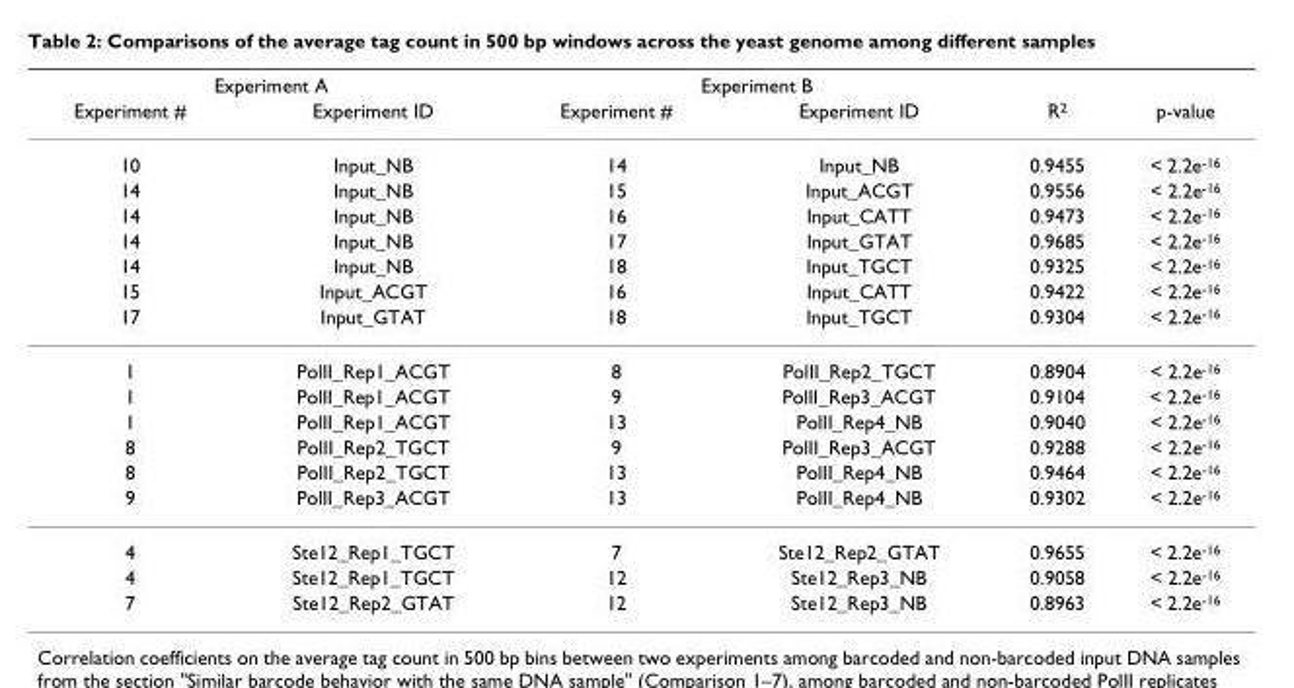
<table><thead><tr><td colspan="2">Experiment A</td><td colspan="2">Experiment B</td><td rowspan="2">R<sup>2</sup></td><td rowspan="2">p-value</td></tr><tr><td>Experiment #</td><td>Experiment ID</td><td>Experiment #</td><td>Experiment ID</td></tr></thead><tbody><tr><td>10</td><td>Input_NB</td><td>14</td><td>Input_NB</td><td>0.9455</td><td>&lt; 2.2e<sup>-16</sup></td></tr><tr><td>14</td><td>Input_NB</td><td>15</td><td>Input_ACGT</td><td>0.9556</td><td>&lt; 2.2e<sup>-16</sup></td></tr><tr><td>14</td><td>Input_NB</td><td>16</td><td>Input_CATT</td><td>0.9473</td><td>&lt; 2.2e<sup>-16</sup></td></tr><tr><td>14</td><td>Input_NB</td><td>17</td><td>Input_GTAT</td><td>0.9685</td><td>&lt; 2.2e<sup>-16</sup></td></tr><tr><td>14</td><td>Input_NB</td><td>18</td><td>Input_TGCT</td><td>0.9325</td><td>&lt; 2.2e<sup>-16</sup></td></tr><tr><td>15</td><td>Input_ACGT</td><td>16</td><td>Input_CATT</td><td>0.9422</td><td>&lt; 2.2e<sup>-16</sup></td></tr><tr><td>17</td><td>Input_GTAT</td><td>18</td><td>Input_TGCT</td><td>0.9304</td><td>&lt; 2.2e<sup>-16</sup></td></tr><tr><td>1</td><td>PolII_Rep1_ACGT</td><td>8</td><td>PolII_Rep2_TGCT</td><td>0.8904</td><td>&lt; 2.2e<sup>-16</sup></td></tr><tr><td>1</td><td>PolII_Rep1_ACGT</td><td>9</td><td>PolII_Rep3_ACGT</td><td>0.9104</td><td>&lt; 2.2e<sup>-16</sup></td></tr><tr><td>1</td><td>PolII_Rep1_ACGT</td><td>13</td><td>PolII_Rep4_NB</td><td>0.9040</td><td>&lt; 2.2e<sup>-16</sup></td></tr><tr><td>8</td><td>PolII_Rep2_TGCT</td><td>9</td><td>PolII_Rep3_ACGT</td><td>0.9288</td><td>&lt; 2.2e<sup>-16</sup></td></tr><tr><td>8</td><td>PolII_Rep2_TGCT</td><td>13</td><td>PolII_Rep4_NB</td><td>0.9464</td><td>&lt; 2.2e<sup>-16</sup></td></tr><tr><td>9</td><td>PolII_Rep3_ACGT</td><td>13</td><td>PolII_Rep4_NB</td><td>0.9302</td><td>&lt; 2.2e<sup>-16</sup></td></tr><tr><td>4</td><td>Ste12_Rep1_TGCT</td><td>7</td><td>Ste12_Rep2_GTAT</td><td>0.9655</td><td>&lt; 2.2e<sup>-16</sup></td></tr><tr><td>4</td><td>Ste12_Rep1_TGCT</td><td>12</td><td>Ste12_Rep3_NB</td><td>0.9058</td><td>&lt; 2.2e<sup>-16</sup></td></tr><tr><td>7</td><td>Ste12_Rep2_GTAT</td><td>12</td><td>Ste12_Rep3_NB</td><td>0.8963</td><td>&lt; 2.2e<sup>-16</sup></td></tr></tbody></table>